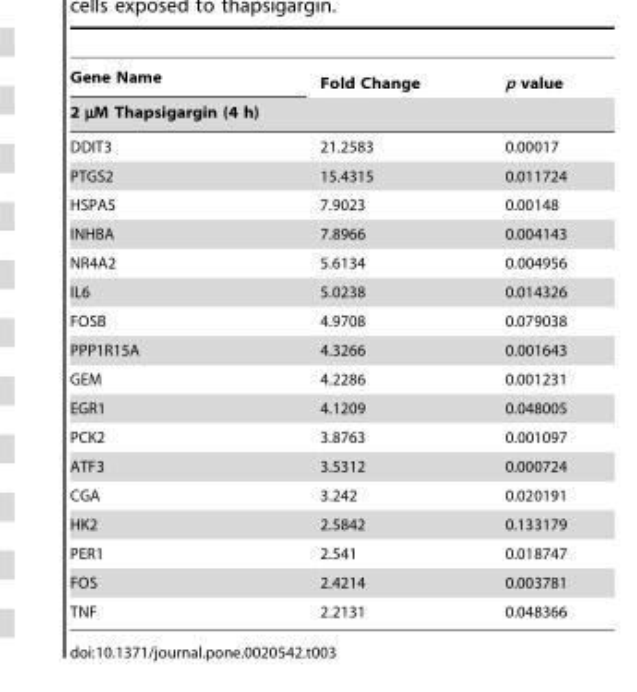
<table><thead><tr><td>Gene Name</td><td>Fold Change</td><td>p value</td></tr><tr><td colspan="3">2 µM Thapsigargin (4 h)</td></tr></thead><tbody><tr><td>DDIT3</td><td>21.2583</td><td>0.00017</td></tr><tr><td>PTGS2</td><td>15.4315</td><td>0.011724</td></tr><tr><td>HSPA5</td><td>7.9023</td><td>0.00148</td></tr><tr><td>INHBA</td><td>7.8966</td><td>0.004143</td></tr><tr><td>NR4A2</td><td>5.6134</td><td>0.004956</td></tr><tr><td>IL6</td><td>5.0238</td><td>0.014326</td></tr><tr><td>FOSB</td><td>4.9708</td><td>0.079038</td></tr><tr><td>PPP1R15A</td><td>4.3266</td><td>0.001643</td></tr><tr><td>GEM</td><td>4.2286</td><td>0.001231</td></tr><tr><td>EGR1</td><td>4.1209</td><td>0.048005</td></tr><tr><td>PCK2</td><td>3.8763</td><td>0.001097</td></tr><tr><td>ATF3</td><td>3.5312</td><td>0.000724</td></tr><tr><td>CGA</td><td>3.242</td><td>0.020191</td></tr><tr><td>HK2</td><td>2.5842</td><td>0.133179</td></tr><tr><td>PER1</td><td>2.541</td><td>0.018747</td></tr><tr><td>FOS</td><td>2.4214</td><td>0.003781</td></tr><tr><td>TNF</td><td>2.2131</td><td>0.048366</td></tr></tbody></table>